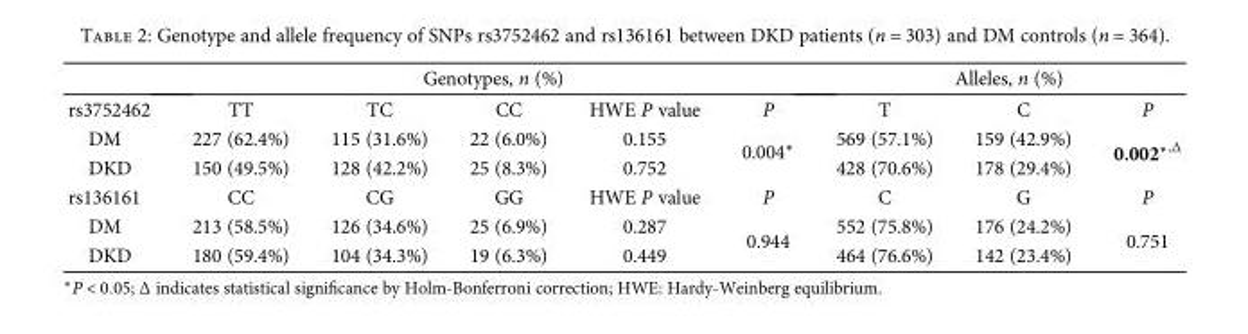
<table><thead><tr><td rowspan="2">rs3752462</td><td colspan="5">Genotypes, n (%)</td><td colspan="3">Alleles, n (%)</td></tr><tr><td>TT</td><td>TC</td><td>CC</td><td>HWE P value</td><td>P</td><td>T</td><td>C</td><td>P</td></tr></thead><tbody><tr><td>DM</td><td>227 (62.4%)</td><td>115 (31.6%)</td><td>22 (6.0%)</td><td>0.155</td><td rowspan="2">0.004∗</td><td>569 (57.1%)</td><td>159 (42.9%)</td><td rowspan="2">0.002∗,Δ</td></tr><tr><td>DKD</td><td>150 (49.5%)</td><td>128 (42.2%)</td><td>25 (8.3%)</td><td>0.752</td><td>428 (70.6%)</td><td>178 (29.4%)</td></tr><tr><td>rs136161</td><td>CC</td><td>CG</td><td>GG</td><td>HWE P value</td><td>P</td><td>C</td><td>G</td><td>P</td></tr><tr><td>DM</td><td>213 (58.5%)</td><td>126 (34.6%)</td><td>25 (6.9%)</td><td>0.287</td><td rowspan="2">0.944</td><td>552 (75.8%)</td><td>176 (24.2%)</td><td rowspan="2">0.751</td></tr><tr><td>DKD</td><td>180 (59.4%)</td><td>104 (34.3%)</td><td>19 (6.3%)</td><td>0.449</td><td>464 (76.6%)</td><td>142 (23.4%)</td></tr></tbody></table>